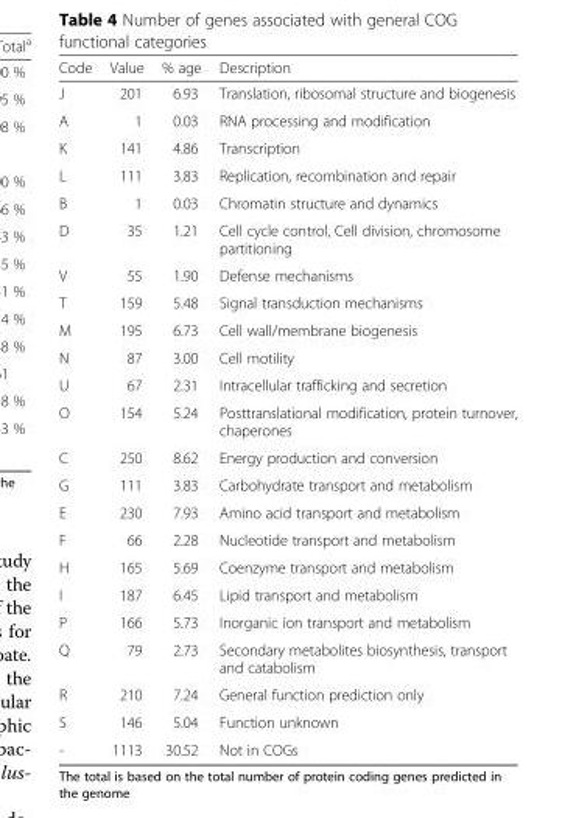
<table><thead><tr><td>Code</td><td>Value</td><td>% age</td><td>Description</td></tr></thead><tbody><tr><td>J</td><td>201</td><td>6.93</td><td>Translation, ribosomal structure and biogenesis</td></tr><tr><td>A</td><td>1</td><td>0.03</td><td>RNA processing and modification</td></tr><tr><td>K</td><td>141</td><td>4.86</td><td>Transcription</td></tr><tr><td>L</td><td>111</td><td>3.83</td><td>Replication, recombination and repair</td></tr><tr><td>B</td><td>1</td><td>0.03</td><td>Chromatin structure and dynamics</td></tr><tr><td>D</td><td>35</td><td>1.21</td><td>Cell cycle control, Cell division, chromosome partitioning</td></tr><tr><td>V</td><td>55</td><td>1.90</td><td>Defense mechanisms</td></tr><tr><td>T</td><td>159</td><td>5.48</td><td>Signal transduction mechanisms</td></tr><tr><td>M</td><td>195</td><td>6.73</td><td>Cell wall/membrane biogenesis</td></tr><tr><td>N</td><td>87</td><td>3.00</td><td>Cell motility</td></tr><tr><td>U</td><td>67</td><td>2.31</td><td>Intracellular trafficking and secretion</td></tr><tr><td>O</td><td>154</td><td>5.24</td><td>Posttranslational modification, protein turnover, chaperones</td></tr><tr><td>C</td><td>250</td><td>8.62</td><td>Energy production and conversion</td></tr><tr><td>G</td><td>111</td><td>3.83</td><td>Carbohydrate transport and metabolism</td></tr><tr><td>E</td><td>230</td><td>7.93</td><td>Amino acid transport and metabolism</td></tr><tr><td>F</td><td>66</td><td>2.28</td><td>Nucleotide transport and metabolism</td></tr><tr><td>H</td><td>165</td><td>5.69</td><td>Coenzyme transport and metabolism</td></tr><tr><td>I</td><td>187</td><td>6.45</td><td>Lipid transport and metabolism</td></tr><tr><td>P</td><td>166</td><td>5.73</td><td>Inorganic ion transport and metabolism</td></tr><tr><td>Q</td><td>79</td><td>2.73</td><td>Secondary metabolites biosynthesis, transport and catabolism</td></tr><tr><td>R</td><td>210</td><td>7.24</td><td>General function prediction only</td></tr><tr><td>S</td><td>146</td><td>5.04</td><td>Function unknown</td></tr><tr><td>-</td><td>1113</td><td>30.52</td><td>Not in COGs</td></tr></tbody></table>